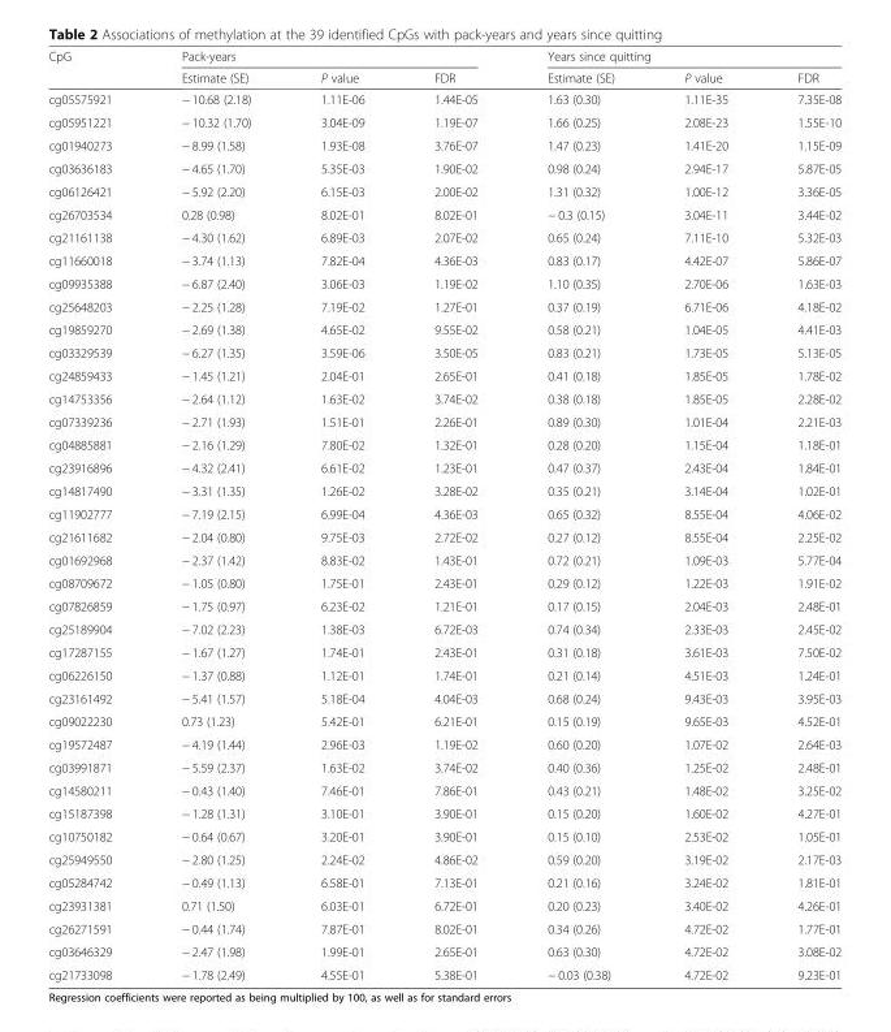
<table><thead><tr><td rowspan="2">CpG</td><td colspan="3">Pack-years</td><td colspan="3">Years since quitting</td></tr><tr><td>Estimate (SE)</td><td>P value</td><td>FDR</td><td>Estimate (SE)</td><td>P value</td><td>FDR</td></tr></thead><tbody><tr><td>cg05575921</td><td>− 10.68 (2.18)</td><td>1.11E-06</td><td>1.44E-05</td><td>1.63 (0.30)</td><td>1.11E-35</td><td>7.35E-08</td></tr><tr><td>cg05951221</td><td>− 10.32 (1.70)</td><td>3.04E-09</td><td>1.19E-07</td><td>1.66 (0.25)</td><td>2.08E-23</td><td>1.55E-10</td></tr><tr><td>cg01940273</td><td>− 8.99 (1.58)</td><td>1.93E-08</td><td>3.76E-07</td><td>1.47 (0.23)</td><td>1.41E-20</td><td>1.15E-09</td></tr><tr><td>cg03636183</td><td>− 4.65 (1.70)</td><td>5.35E-03</td><td>1.90E-02</td><td>0.98 (0.24)</td><td>2.94E-17</td><td>5.87E-05</td></tr><tr><td>cg06126421</td><td>− 5.92 (2.20)</td><td>6.15E-03</td><td>2.00E-02</td><td>1.31 (0.32)</td><td>1.00E-12</td><td>3.36E-05</td></tr><tr><td>cg26703534</td><td>0.28 (0.98)</td><td>8.02E-01</td><td>8.02E-01</td><td>− 0.3 (0.15)</td><td>3.04E-11</td><td>3.44E-02</td></tr><tr><td>cg21161138</td><td>− 4.30 (1.62)</td><td>6.89E-03</td><td>2.07E-02</td><td>0.65 (0.24)</td><td>7.11E-10</td><td>5.32E-03</td></tr><tr><td>cg11660018</td><td>− 3.74 (1.13)</td><td>7.82E-04</td><td>4.36E-03</td><td>0.83 (0.17)</td><td>4.42E-07</td><td>5.86E-07</td></tr><tr><td>cg09935388</td><td>− 6.87 (2.40)</td><td>3.06E-03</td><td>1.19E-02</td><td>1.10 (0.35)</td><td>2.70E-06</td><td>1.63E-03</td></tr><tr><td>cg25648203</td><td>− 2.25 (1.28)</td><td>7.19E-02</td><td>1.27E-01</td><td>0.37 (0.19)</td><td>6.71E-06</td><td>4.18E-02</td></tr><tr><td>cg19859270</td><td>− 2.69 (1.38)</td><td>4.65E-02</td><td>9.55E-02</td><td>0.58 (0.21)</td><td>1.04E-05</td><td>4.41E-03</td></tr><tr><td>cg03329539</td><td>− 6.27 (1.35)</td><td>3.59E-06</td><td>3.50E-05</td><td>0.83 (0.21)</td><td>1.73E-05</td><td>5.13E-05</td></tr><tr><td>cg24859433</td><td>− 1.45 (1.21)</td><td>2.04E-01</td><td>2.65E-01</td><td>0.41 (0.18)</td><td>1.85E-05</td><td>1.78E-02</td></tr><tr><td>cg14753356</td><td>− 2.64 (1.12)</td><td>1.63E-02</td><td>3.74E-02</td><td>0.38 (0.18)</td><td>1.85E-05</td><td>2.28E-02</td></tr><tr><td>cg07339236</td><td>− 2.71 (1.93)</td><td>1.51E-01</td><td>2.26E-01</td><td>0.89 (0.30)</td><td>1.01E-04</td><td>2.21E-03</td></tr><tr><td>cg04885881</td><td>− 2.16 (1.29)</td><td>7.80E-02</td><td>1.32E-01</td><td>0.28 (0.20)</td><td>1.15E-04</td><td>1.18E-01</td></tr><tr><td>cg23916896</td><td>− 4.32 (2.41)</td><td>6.61E-02</td><td>1.23E-01</td><td>0.47 (0.37)</td><td>2.43E-04</td><td>1.84E-01</td></tr><tr><td>cg14817490</td><td>− 3.31 (1.35)</td><td>1.26E-02</td><td>3.28E-02</td><td>0.35 (0.21)</td><td>3.14E-04</td><td>1.02E-01</td></tr><tr><td>cg11902777</td><td>− 7.19 (2.15)</td><td>6.99E-04</td><td>4.36E-03</td><td>0.65 (0.32)</td><td>8.55E-04</td><td>4.06E-02</td></tr><tr><td>cg21611682</td><td>− 2.04 (0.80)</td><td>9.75E-03</td><td>2.72E-02</td><td>0.27 (0.12)</td><td>8.55E-04</td><td>2.25E-02</td></tr><tr><td>cg01692968</td><td>− 2.37 (1.42)</td><td>8.83E-02</td><td>1.43E-01</td><td>0.72 (0.21)</td><td>1.09E-03</td><td>5.77E-04</td></tr><tr><td>cg08709672</td><td>− 1.05 (0.80)</td><td>1.75E-01</td><td>2.43E-01</td><td>0.29 (0.12)</td><td>1.22E-03</td><td>1.91E-02</td></tr><tr><td>cg07826859</td><td>− 1.75 (0.97)</td><td>6.23E-02</td><td>1.21E-01</td><td>0.17 (0.15)</td><td>2.04E-03</td><td>2.48E-01</td></tr><tr><td>cg25189904</td><td>− 7.02 (2.23)</td><td>1.38E-03</td><td>6.72E-03</td><td>0.74 (0.34)</td><td>2.33E-03</td><td>2.45E-02</td></tr><tr><td>cg17287155</td><td>− 1.67 (1.27)</td><td>1.74E-01</td><td>2.43E-01</td><td>0.31 (0.18)</td><td>3.61E-03</td><td>7.50E-02</td></tr><tr><td>cg06226150</td><td>− 1.37 (0.88)</td><td>1.12E-01</td><td>1.74E-01</td><td>0.21 (0.14)</td><td>4.51E-03</td><td>1.24E-01</td></tr><tr><td>cg23161492</td><td>− 5.41 (1.57)</td><td>5.18E-04</td><td>4.04E-03</td><td>0.68 (0.24)</td><td>9.43E-03</td><td>3.95E-03</td></tr><tr><td>cg09022230</td><td>0.73 (1.23)</td><td>5.42E-01</td><td>6.21E-01</td><td>0.15 (0.19)</td><td>9.65E-03</td><td>4.52E-01</td></tr><tr><td>cg19572487</td><td>− 4.19 (1.44)</td><td>2.96E-03</td><td>1.19E-02</td><td>0.60 (0.20)</td><td>1.07E-02</td><td>2.64E-03</td></tr><tr><td>cg03991871</td><td>− 5.59 (2.37)</td><td>1.63E-02</td><td>3.74E-02</td><td>0.40 (0.36)</td><td>1.25E-02</td><td>2.48E-01</td></tr><tr><td>cg14580211</td><td>− 0.43 (1.40)</td><td>7.46E-01</td><td>7.86E-01</td><td>0.43 (0.21)</td><td>1.48E-02</td><td>3.25E-02</td></tr><tr><td>cg15187398</td><td>− 1.28 (1.31)</td><td>3.10E-01</td><td>3.90E-01</td><td>0.15 (0.20)</td><td>1.60E-02</td><td>4.27E-01</td></tr><tr><td>cg10750182</td><td>− 0.64 (0.67)</td><td>3.20E-01</td><td>3.90E-01</td><td>0.15 (0.10)</td><td>2.53E-02</td><td>1.05E-01</td></tr><tr><td>cg25949550</td><td>− 2.80 (1.25)</td><td>2.24E-02</td><td>4.86E-02</td><td>0.59 (0.20)</td><td>3.19E-02</td><td>2.17E-03</td></tr><tr><td>cg05284742</td><td>− 0.49 (1.13)</td><td>6.58E-01</td><td>7.13E-01</td><td>0.21 (0.16)</td><td>3.24E-02</td><td>1.81E-01</td></tr><tr><td>cg23931381</td><td>0.71 (1.50)</td><td>6.03E-01</td><td>6.72E-01</td><td>0.20 (0.23)</td><td>3.40E-02</td><td>4.26E-01</td></tr><tr><td>cg26271591</td><td>− 0.44 (1.74)</td><td>7.87E-01</td><td>8.02E-01</td><td>0.34 (0.26)</td><td>4.72E-02</td><td>1.77E-01</td></tr><tr><td>cg03646329</td><td>− 2.47 (1.98)</td><td>1.99E-01</td><td>2.65E-01</td><td>0.63 (0.30)</td><td>4.72E-02</td><td>3.08E-02</td></tr><tr><td>cg21733098</td><td>− 1.78 (2.49)</td><td>4.55E-01</td><td>5.38E-01</td><td>− 0.03 (0.38)</td><td>4.72E-02</td><td>9.23E-01</td></tr></tbody></table>